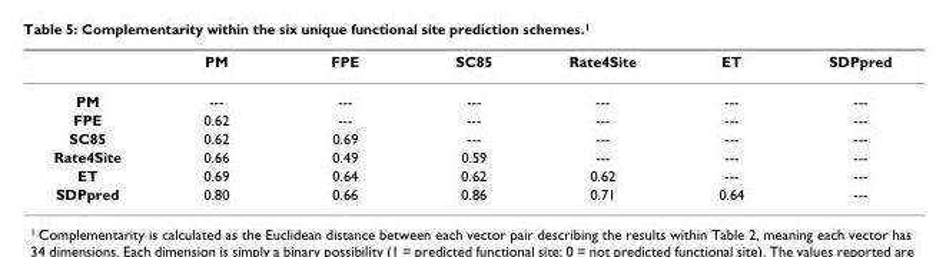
<table><thead><tr><td></td><td>PM</td><td>FPE</td><td>SC85</td><td>Rate4Site</td><td>ET</td><td>SDPpred</td></tr></thead><tbody><tr><td>PM</td><td>---</td><td>---</td><td>---</td><td>---</td><td>---</td><td>---</td></tr><tr><td>FPE</td><td>0.62</td><td>---</td><td>---</td><td>---</td><td>---</td><td>---</td></tr><tr><td>SC85</td><td>0.62</td><td>0.69</td><td>---</td><td>---</td><td>---</td><td>---</td></tr><tr><td>Rate4Site</td><td>0.66</td><td>0.49</td><td>0.59</td><td>---</td><td>---</td><td>---</td></tr><tr><td>ET</td><td>0.69</td><td>0.64</td><td>0.62</td><td>0.62</td><td>---</td><td>---</td></tr><tr><td>SDPpred</td><td>0.80</td><td>0.66</td><td>0.86</td><td>0.71</td><td>0.64</td><td>---</td></tr></tbody></table>